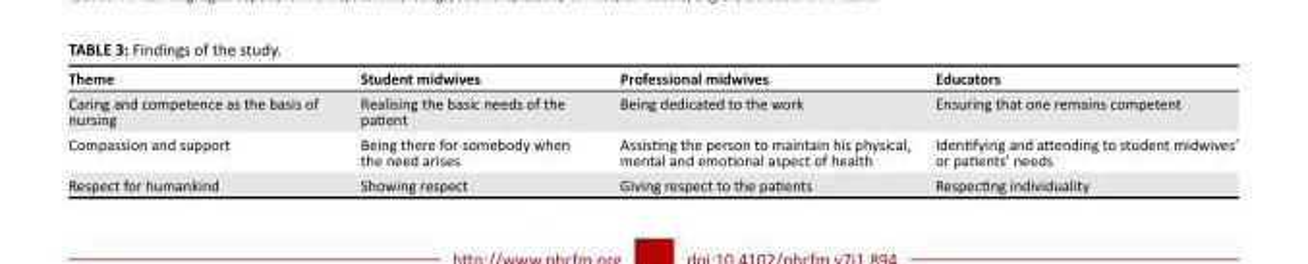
<table><thead><tr><td>Theme</td><td>Student midwives</td><td>Professional midwives</td><td>Educators</td></tr></thead><tbody><tr><td>Caring and competence as the basis of nursing</td><td>Realising the basic needs of the patient</td><td>Being dedicated to the work</td><td>Ensuring that one remains competent</td></tr><tr><td>Compassion and support</td><td>Being there for somebody when the need arises</td><td>Assisting the person to maintain his physical, mental and emotional aspect of health</td><td>Identifying and attending to student midwives’ or patients’ needs</td></tr><tr><td>Respect for humankind</td><td>Showing respect</td><td>Giving respect to the patients</td><td>Respecting individuality</td></tr></tbody></table>